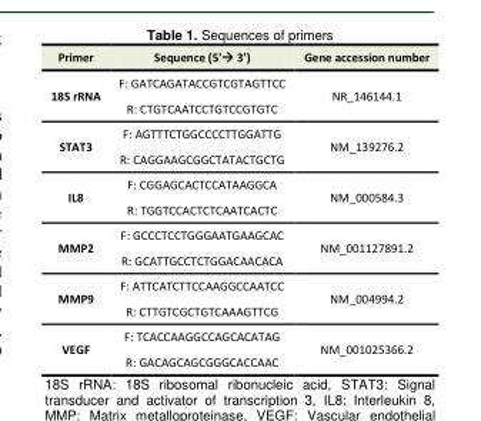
<table><tbody><tr><td>Primer</td><td>Sequence (5&#x27;→ 3&#x27;)</td><td>Gene accession number</td></tr><tr><td rowspan="2">18S rRNA</td><td>F: GATCAGATACCGTCGTAGTTCC</td><td rowspan="2">NR_146144.1</td></tr><tr><td>R: CTGTCAATCCTGTCCGTGTC</td></tr><tr><td rowspan="2">STAT3</td><td>F: AGTTTCTGGCCCCTTGGATTG</td><td rowspan="2">NM_139276.2</td></tr><tr><td>R: CAGGAAGCGGCTATACTGCTG</td></tr><tr><td rowspan="2">IL8</td><td>F: CGGAGCACTCCATAAGGCA</td><td rowspan="2">NM_000584.3</td></tr><tr><td>R: TGGTCCACTCTCAATCACTC</td></tr><tr><td rowspan="2">MMP2</td><td>F: GCCCTCCTGGGAATGAAGCAC</td><td rowspan="2">NM_001127891.2</td></tr><tr><td>R: GCATTGCCTCTGGACAACACA</td></tr><tr><td rowspan="2">MMP9</td><td>F: ATTCATCTTCCAAGGCCAATCC</td><td rowspan="2">NM_004994.2</td></tr><tr><td>R: CTTGTCGCTGTCAAAGTTCG</td></tr><tr><td rowspan="2">VEGF</td><td>F: TCACCAAGGCCAGCACATAG</td><td rowspan="2">NM_001025366.2</td></tr><tr><td>R: GACAGCAGCGGGCACCAAC</td></tr></tbody></table>